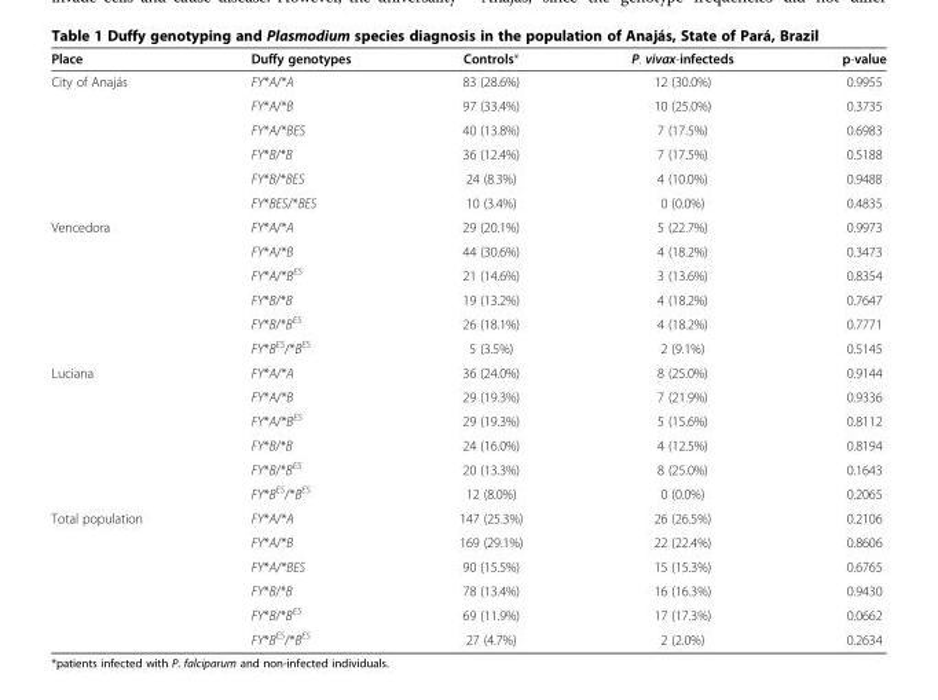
<table><thead><tr><td>Place</td><td>Duffy genotypes</td><td>Controls*</td><td>P. vivax-infecteds</td><td>p-value</td></tr></thead><tbody><tr><td rowspan="6">City of Anajás</td><td>FY*A/*A</td><td>83 (28.6%)</td><td>12 (30.0%)</td><td>0.9955</td></tr><tr><td>FY*A/*B</td><td>97 (33.4%)</td><td>10 (25.0%)</td><td>0.3735</td></tr><tr><td>FY*A/*BES</td><td>40 (13.8%)</td><td>7 (17.5%)</td><td>0.6983</td></tr><tr><td>FY*B/*B</td><td>36 (12.4%)</td><td>7 (17.5%)</td><td>0.5188</td></tr><tr><td>FY*B/*BES</td><td>24 (8.3%)</td><td>4 (10.0%)</td><td>0.9488</td></tr><tr><td>FY*BES/*BES</td><td>10 (3.4%)</td><td>0 (0.0%)</td><td>0.4835</td></tr><tr><td rowspan="6">Vencedora</td><td>FY*A/*A</td><td>29 (20.1%)</td><td>5 (22.7%)</td><td>0.9973</td></tr><tr><td>FY*A/*B</td><td>44 (30.6%)</td><td>4 (18.2%)</td><td>0.3473</td></tr><tr><td>FY*A/*B<sup>ES</sup></td><td>21 (14.6%)</td><td>3 (13.6%)</td><td>0.8354</td></tr><tr><td>FY*B/*B</td><td>19 (13.2%)</td><td>4 (18.2%)</td><td>0.7647</td></tr><tr><td>FY*B/*B<sup>ES</sup></td><td>26 (18.1%)</td><td>4 (18.2%)</td><td>0.7771</td></tr><tr><td>FY*B<sup>ES</sup>/*B<sup>ES</sup></td><td>5 (3.5%)</td><td>2 (9.1%)</td><td>0.5145</td></tr><tr><td rowspan="6">Luciana</td><td>FY*A/*A</td><td>36 (24.0%)</td><td>8 (25.0%)</td><td>0.9144</td></tr><tr><td>FY*A/*B</td><td>29 (19.3%)</td><td>7 (21.9%)</td><td>0.9336</td></tr><tr><td>FY*A/*B<sup>ES</sup></td><td>29 (19.3%)</td><td>5 (15.6%)</td><td>0.8112</td></tr><tr><td>FY*B/*B</td><td>24 (16.0%)</td><td>4 (12.5%)</td><td>0.8194</td></tr><tr><td>FY*B/*B<sup>ES</sup></td><td>20 (13.3%)</td><td>8 (25.0%)</td><td>0.1643</td></tr><tr><td>FY*B<sup>ES</sup>/*B<sup>ES</sup></td><td>12 (8.0%)</td><td>0 (0.0%)</td><td>0.2065</td></tr><tr><td rowspan="6">Total population</td><td>FY*A/*A</td><td>147 (25.3%)</td><td>26 (26.5%)</td><td>0.2106</td></tr><tr><td>FY*A/*B</td><td>169 (29.1%)</td><td>22 (22.4%)</td><td>0.8606</td></tr><tr><td>FY*A/*BES</td><td>90 (15.5%)</td><td>15 (15.3%)</td><td>0.6765</td></tr><tr><td>FY*B/*B</td><td>78 (13.4%)</td><td>16 (16.3%)</td><td>0.9430</td></tr><tr><td>FY*B/*B<sup>ES</sup></td><td>69 (11.9%)</td><td>17 (17.3%)</td><td>0.0662</td></tr><tr><td>FY*B<sup>ES</sup>/*B<sup>ES</sup></td><td>27 (4.7%)</td><td>2 (2.0%)</td><td>0.2634</td></tr></tbody></table>